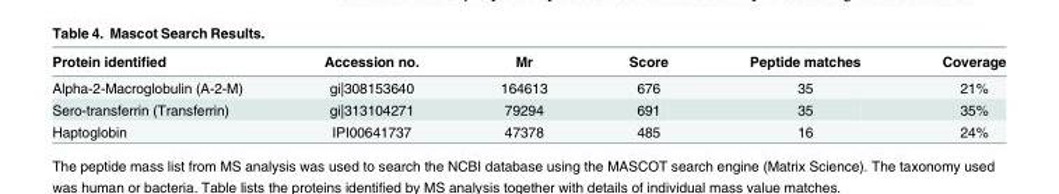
<table><thead><tr><td>Protein identified</td><td>Accession no.</td><td>Mr</td><td>Score</td><td>Peptide matches</td><td>Coverage</td></tr></thead><tbody><tr><td>Alpha-2-Macroglobulin (A-2-M)</td><td>gi|308153640</td><td>164613</td><td>676</td><td>35</td><td>21%</td></tr><tr><td>Sero-transferrin (Transferrin)</td><td>gi|313104271</td><td>79294</td><td>691</td><td>35</td><td>35%</td></tr><tr><td>Haptoglobin</td><td>IPI00641737</td><td>47378</td><td>485</td><td>16</td><td>24%</td></tr></tbody></table>